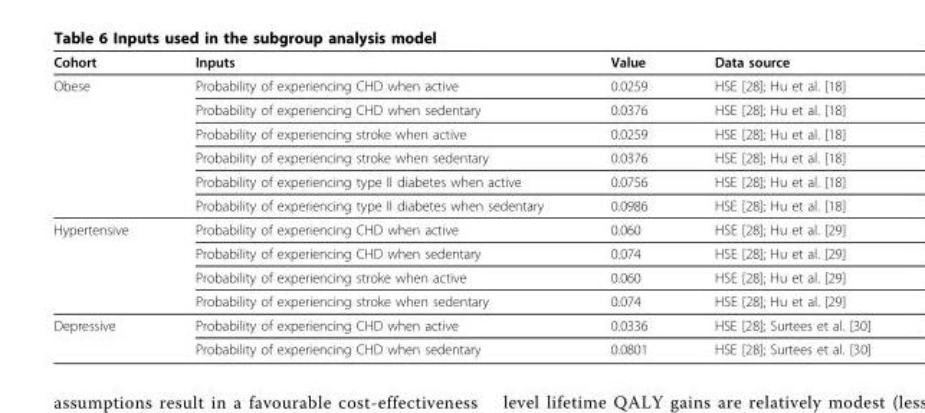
<table><thead><tr><td>Cohort</td><td>Inputs</td><td>Value</td><td>Data source</td></tr></thead><tbody><tr><td rowspan="6">Obese</td><td>Probability of experiencing CHD when active</td><td>0.0259</td><td>HSE [28]; Hu et al. [18]</td></tr><tr><td>Probability of experiencing CHD when sedentary</td><td>0.0376</td><td>HSE [28]; Hu et al. [18]</td></tr><tr><td>Probability of experiencing stroke when active</td><td>0.0259</td><td>HSE [28]; Hu et al. [18]</td></tr><tr><td>Probability of experiencing stroke when sedentary</td><td>0.0376</td><td>HSE [28]; Hu et al. [18]</td></tr><tr><td>Probability of experiencing type II diabetes when active</td><td>0.0756</td><td>HSE [28]; Hu et al. [18]</td></tr><tr><td>Probability of experiencing type II diabetes when sedentary</td><td>0.0986</td><td>HSE [28]; Hu et al. [18]</td></tr><tr><td rowspan="4">Hypertensive</td><td>Probability of experiencing CHD when active</td><td>0.060</td><td>HSE [28]; Hu et al. [29]</td></tr><tr><td>Probability of experiencing CHD when sedentary</td><td>0.074</td><td>HSE [28]; Hu et al. [29]</td></tr><tr><td>Probability of experiencing stroke when active</td><td>0.060</td><td>HSE [28]; Hu et al. [29]</td></tr><tr><td>Probability of experiencing stroke when sedentary</td><td>0.074</td><td>HSE [28]; Hu et al. [29]</td></tr><tr><td rowspan="2">Depressive</td><td>Probability of experiencing CHD when active</td><td>0.0336</td><td>HSE [28]; Surtees et al. [30]</td></tr><tr><td>Probability of experiencing CHD when sedentary</td><td>0.0801</td><td>HSE [28]; Surtees et al. [30]</td></tr></tbody></table>